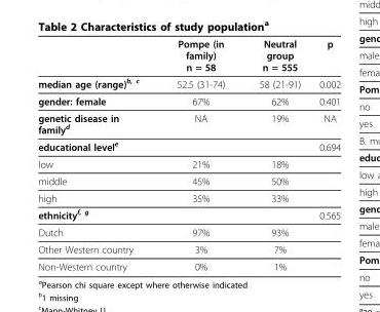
<table><thead><tr><td></td><td>Pompe (in family) n = 58</td><td>Neutral group n = 555</td><td>p</td></tr></thead><tbody><tr><td>median age (range)<sup>b, c</sup></td><td>52.5 (31-74)</td><td>58 (21-91)</td><td>0.002</td></tr><tr><td>gender: female</td><td>67%</td><td>62%</td><td>0.401</td></tr><tr><td>genetic disease in family<sup>d</sup></td><td>NA</td><td>19%</td><td>NA</td></tr><tr><td>educational level<sup>e</sup></td><td></td><td></td><td>0.694</td></tr><tr><td>low</td><td>21%</td><td>18%</td><td></td></tr><tr><td>middle</td><td>45%</td><td>50%</td><td></td></tr><tr><td>high</td><td>35%</td><td>33%</td><td></td></tr><tr><td>ethnicity<sup>f, g</sup></td><td></td><td></td><td>0.565</td></tr><tr><td>Dutch</td><td>97%</td><td>93%</td><td></td></tr><tr><td>Other Western country</td><td>3%</td><td>7%</td><td></td></tr><tr><td>Non-Western country</td><td>0%</td><td>1%</td><td></td></tr></tbody></table>